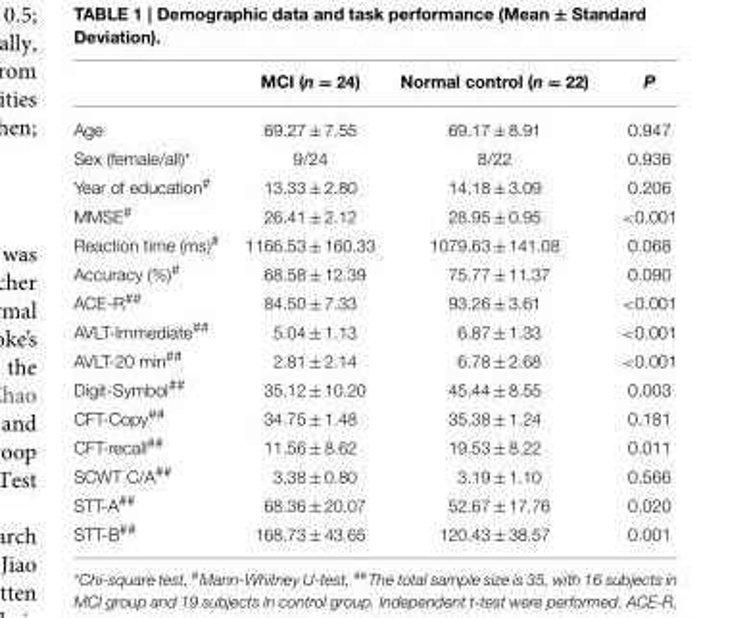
<table><thead><tr><td></td><td>MCI (n = 24)</td><td>Normal control (n = 22)</td><td>P</td></tr></thead><tbody><tr><td>Age</td><td>69.27 ± 7.55</td><td>69.17 ± 8.91</td><td>0.947</td></tr><tr><td>Sex (female/all)*</td><td>9/24</td><td>8/22</td><td>0.936</td></tr><tr><td>Year of education<sup>#</sup></td><td>13.33 ± 2.80</td><td>14.18 ± 3.09</td><td>0.206</td></tr><tr><td>MMSE<sup>#</sup></td><td>26.41 ± 2.12</td><td>28.95 ± 0.95</td><td>&lt;0.001</td></tr><tr><td>Reaction time (ms)<sup>#</sup></td><td>1166.53 ± 160.33</td><td>1079.63 ± 141.08</td><td>0.068</td></tr><tr><td>Accuracy (%)<sup>#</sup></td><td>68.58 ± 12.39</td><td>75.77 ± 11.37</td><td>0.090</td></tr><tr><td>ACE-R<sup>##</sup></td><td>84.50 ± 7.33</td><td>93.26 ± 3.61</td><td>&lt;0.001</td></tr><tr><td>AVLT-Immediate<sup>##</sup></td><td>5.04 ± 1.13</td><td>6.87 ± 1.33</td><td>&lt;0.001</td></tr><tr><td>AVLT-20 min<sup>##</sup></td><td>2.81 ± 2.14</td><td>6.78 ± 2.68</td><td>&lt;0.001</td></tr><tr><td>Digit-Symbol<sup>##</sup></td><td>35.12 ± 10.20</td><td>45.44 ± 8.55</td><td>0.003</td></tr><tr><td>CFT-Copy<sup>##</sup></td><td>34.75 ± 1.48</td><td>35.38 ± 1.24</td><td>0.181</td></tr><tr><td>CFT-recall<sup>##</sup></td><td>11.56 ± 8.62</td><td>19.53 ± 8.22</td><td>0.011</td></tr><tr><td>SCWT C/A<sup>##</sup></td><td>3.38 ± 0.80</td><td>3.19 ± 1.10</td><td>0.566</td></tr><tr><td>STT-A<sup>##</sup></td><td>68.36 ± 20.07</td><td>52.67 ± 17.76</td><td>0.020</td></tr><tr><td>STT-B<sup>##</sup></td><td>168.73 ± 43.65</td><td>120.43 ± 38.57</td><td>0.001</td></tr></tbody></table>